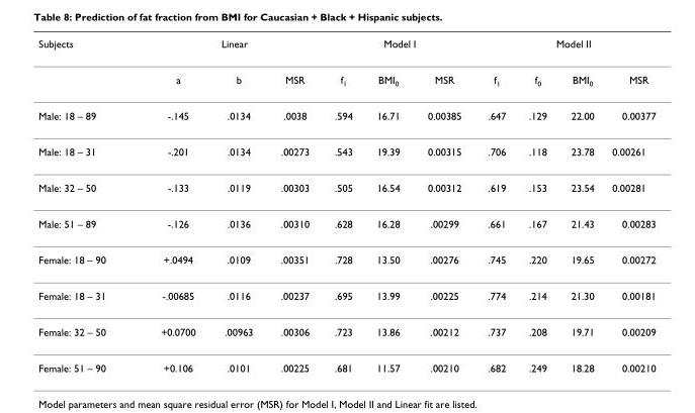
<table><thead><tr><td rowspan="2">Subjects</td><td colspan="3">Linear</td><td colspan="3">Model I</td><td colspan="4">Model II</td></tr><tr><td>a</td><td>b</td><td>MSR</td><td>f<sub>1</sub></td><td>BMI<sub>0</sub></td><td>MSR</td><td>f<sub>1</sub></td><td>f<sub>0</sub></td><td>BMI<sub>0</sub></td><td>MSR</td></tr></thead><tbody><tr><td>Male: 18 – 89</td><td>-.145</td><td>.0134</td><td>.0038</td><td>.594</td><td>16.71</td><td>0.00385</td><td>.647</td><td>.129</td><td>22.00</td><td>0.00377</td></tr><tr><td>Male: 18 – 31</td><td>-.201</td><td>.0134</td><td>.00273</td><td>.543</td><td>19.39</td><td>0.00315</td><td>.706</td><td>.118</td><td>23.78</td><td>0.00261</td></tr><tr><td>Male: 32 – 50</td><td>-.133</td><td>.0119</td><td>.00303</td><td>.505</td><td>16.54</td><td>0.00312</td><td>.619</td><td>.153</td><td>23.54</td><td>0.00281</td></tr><tr><td>Male: 51 – 89</td><td>-.126</td><td>.0136</td><td>.00310</td><td>.628</td><td>16.28</td><td>.00299</td><td>.661</td><td>.167</td><td>21.43</td><td>0.00283</td></tr><tr><td>Female: 18 – 90</td><td>+.0494</td><td>.0109</td><td>.00351</td><td>.728</td><td>13.50</td><td>.00276</td><td>.745</td><td>.220</td><td>19.65</td><td>0.00272</td></tr><tr><td>Female: 18 – 31</td><td>-.00685</td><td>.0116</td><td>.00237</td><td>.695</td><td>13.99</td><td>.00225</td><td>.774</td><td>.214</td><td>21.30</td><td>0.00181</td></tr><tr><td>Female: 32 – 50</td><td>+0.0700</td><td>.00963</td><td>.00306</td><td>.723</td><td>13.86</td><td>.00212</td><td>.737</td><td>.208</td><td>19.71</td><td>0.00209</td></tr><tr><td>Female: 51 – 90</td><td>+0.106</td><td>.0101</td><td>.00225</td><td>.681</td><td>11.57</td><td>.00210</td><td>.682</td><td>.249</td><td>18.28</td><td>0.00210</td></tr></tbody></table>